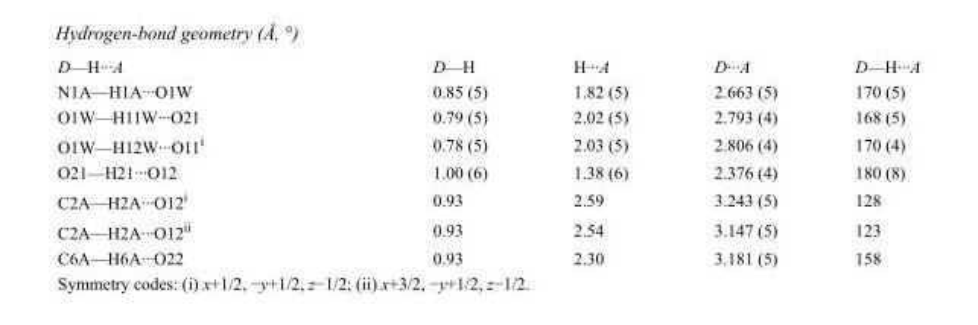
<table><tbody><tr><td>D—H···A</td><td>D—H</td><td>H···A</td><td>D···A</td><td>D—H···A</td></tr><tr><td>N1A—H1A···O1W</td><td>0.85 (5)</td><td>1.82 (5)</td><td>2.663 (5)</td><td>170 (5)</td></tr><tr><td>O1W—H11W···O21</td><td>0.79 (5)</td><td>2.02 (5)</td><td>2.793 (4)</td><td>168 (5)</td></tr><tr><td>O1W—H12W···O11<sup>i</sup></td><td>0.78 (5)</td><td>2.03 (5)</td><td>2.806 (4)</td><td>170 (4)</td></tr><tr><td>O21—H21···O12</td><td>1.00 (6)</td><td>1.38 (6)</td><td>2.376 (4)</td><td>180 (8)</td></tr><tr><td>C2A—H2A···O12<sup>i</sup></td><td>0.93</td><td>2.59</td><td>3.243 (5)</td><td>128</td></tr><tr><td>C2A—H2A···O12<sup>ii</sup></td><td>0.93</td><td>2.54</td><td>3.147 (5)</td><td>123</td></tr><tr><td>C6A—H6A···O22</td><td>0.93</td><td>2.30</td><td>3.181 (5)</td><td>158</td></tr></tbody></table>